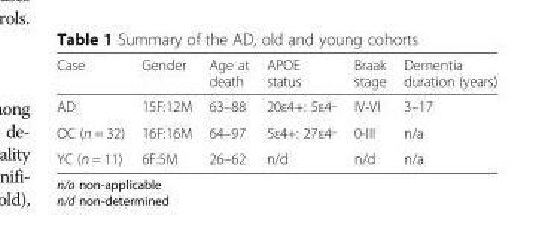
<table><thead><tr><td>Case</td><td>Gender</td><td>Age at death</td><td>APOE status</td><td>Braak stage</td><td>Dementia duration (years)</td></tr></thead><tbody><tr><td>AD</td><td>15F:12M</td><td>63–88</td><td>20ε4+: 5ε4<sup>_</sup></td><td>IV-VI</td><td>3–17</td></tr><tr><td>OC (n = 32)</td><td>16F:16M</td><td>64–97</td><td>5ε4+: 27ε4<sup>_</sup></td><td>0-III</td><td>n/a</td></tr><tr><td>YC (n = 11)</td><td>6F:5M</td><td>26–62</td><td>n/d</td><td>n/d</td><td>n/a</td></tr></tbody></table>